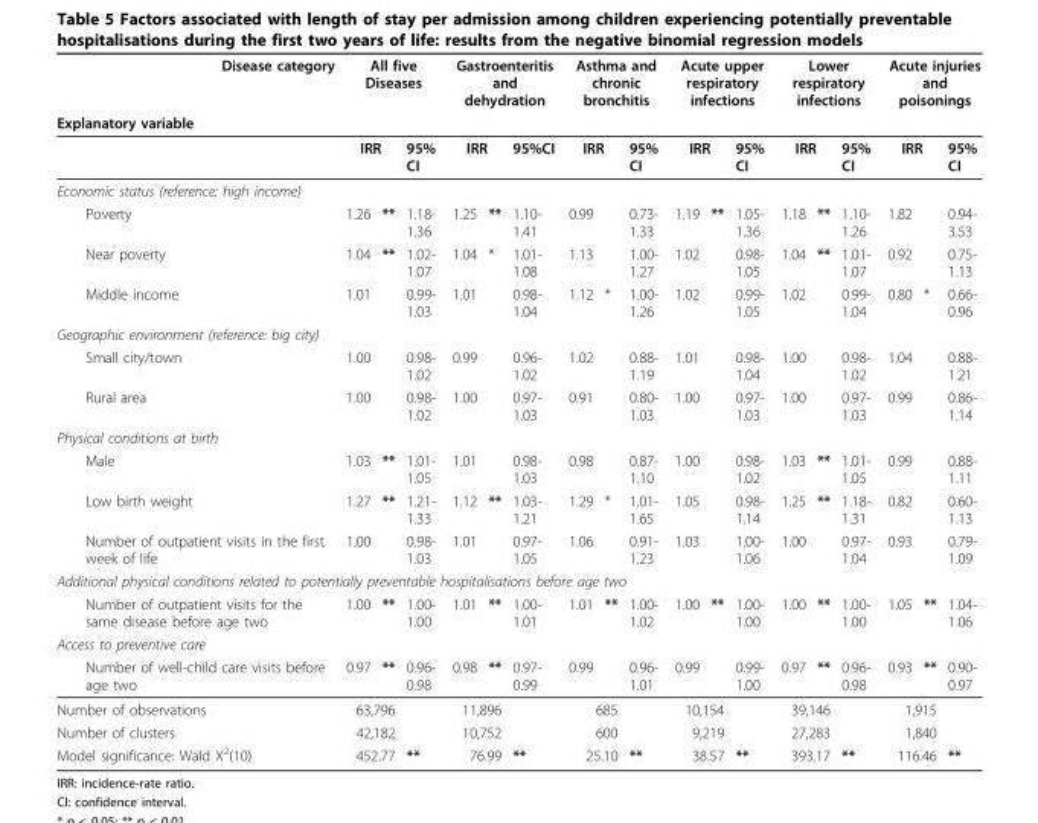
<table><thead><tr><td>Disease category</td><td colspan="3">All five Diseases</td><td colspan="3">Gastroenteritis and dehydration</td><td colspan="3">Asthma and chronic bronchitis</td><td colspan="3">Acute upper respiratory infections</td><td colspan="3">Lower respiratory infections</td><td colspan="3">Acute injuries and poisonings</td></tr><tr><td colspan="19">Explanatory variable</td></tr><tr><td></td><td colspan="2">IRR</td><td>95% CI</td><td colspan="2">IRR</td><td>95%CI</td><td colspan="2">IRR</td><td>95% CI</td><td colspan="2">IRR</td><td>95% CI</td><td colspan="2">IRR</td><td>95% CI</td><td colspan="2">IRR</td><td>95% CI</td></tr><tr><td colspan="19">Economic status (reference: high income)</td></tr><tr><td>Poverty</td><td>1.26</td><td>**</td><td>1.18- 1.36</td><td>1.25</td><td>**</td><td>1.10- 1.41</td><td>0.99</td><td></td><td>0.73- 1.33</td><td>1.19</td><td>**</td><td>1.05- 1.36</td><td>1.18</td><td>**</td><td>1.10- 1.26</td><td>1.82</td><td></td><td>0.94- 3.53</td></tr></thead><tbody><tr><td>Near poverty</td><td>1.04</td><td>**</td><td>1.02- 1.07</td><td>1.04</td><td>*</td><td>1.01- 1.08</td><td>1.13</td><td></td><td>1.00- 1.27</td><td>1.02</td><td></td><td>0.98- 1.05</td><td>1.04</td><td>**</td><td>1.01- 1.07</td><td>0.92</td><td></td><td>0.75- 1.13</td></tr><tr><td>Middle income</td><td>1.01</td><td></td><td>0.99- 1.03</td><td>1.01</td><td></td><td>0.98- 1.04</td><td>1.12</td><td>*</td><td>1.00- 1.26</td><td>1.02</td><td></td><td>0.99- 1.05</td><td>1.02</td><td></td><td>0.99- 1.04</td><td>0.80</td><td>*</td><td>0.66- 0.96</td></tr><tr><td colspan="19">Geographic environment (reference: big city)</td></tr><tr><td>Small city/town</td><td>1.00</td><td></td><td>0.98- 1.02</td><td>0.99</td><td></td><td>0.96- 1.02</td><td>1.02</td><td></td><td>0.88- 1.19</td><td>1.01</td><td></td><td>0.98- 1.04</td><td>1.00</td><td></td><td>0.98- 1.02</td><td>1.04</td><td></td><td>0.88- 1.21</td></tr><tr><td>Rural area</td><td>1.00</td><td></td><td>0.98- 1.02</td><td>1.00</td><td></td><td>0.97- 1.03</td><td>0.91</td><td></td><td>0.80- 1.03</td><td>1.00</td><td></td><td>0.97- 1.03</td><td>1.00</td><td></td><td>0.97- 1.03</td><td>0.99</td><td></td><td>0.86- 1.14</td></tr><tr><td colspan="19">Physical conditions at birth</td></tr><tr><td>Male</td><td>1.03</td><td>**</td><td>1.01- 1.05</td><td>1.01</td><td></td><td>0.98- 1.03</td><td>0.98</td><td></td><td>0.87- 1.10</td><td>1.00</td><td></td><td>0.98- 1.02</td><td>1.03</td><td>**</td><td>1.01- 1.05</td><td>0.99</td><td></td><td>0.88- 1.11</td></tr><tr><td>Low birth weight</td><td>1.27</td><td>**</td><td>1.21- 1.33</td><td>1.12</td><td>**</td><td>1.03- 1.21</td><td>1.29</td><td>*</td><td>1.01- 1.65</td><td>1.05</td><td></td><td>0.98- 1.14</td><td>1.25</td><td>**</td><td>1.18- 1.31</td><td>0.82</td><td></td><td>0.60- 1.13</td></tr><tr><td>Number of outpatient visits in the first week of life</td><td>1.00</td><td></td><td>0.98- 1.03</td><td>1.01</td><td></td><td>0.97- 1.05</td><td>1.06</td><td></td><td>0.91- 1.23</td><td>1.03</td><td></td><td>1.00- 1.06</td><td>1.00</td><td></td><td>0.97- 1.04</td><td>0.93</td><td></td><td>0.79- 1.09</td></tr><tr><td colspan="19">Additional physical conditions related to potentially preventable hospitalisations before age two</td></tr><tr><td>Number of outpatient visits for the same disease before age two</td><td>1.00</td><td>**</td><td>1.00- 1.00</td><td>1.01</td><td>**</td><td>1.00- 1.01</td><td>1.01</td><td>**</td><td>1.00- 1.02</td><td>1.00</td><td>**</td><td>1.00- 1.00</td><td>1.00</td><td>**</td><td>1.00- 1.00</td><td>1.05</td><td>**</td><td>1.04- 1.06</td></tr><tr><td colspan="19">Access to preventive care</td></tr><tr><td>Number of well-child care visits before age two</td><td>0.97</td><td>**</td><td>0.96- 0.98</td><td>0.98</td><td>**</td><td>0.97- 0.99</td><td>0.99</td><td></td><td>0.96- 1.01</td><td>0.99</td><td></td><td>0.99- 1.00</td><td>0.97</td><td>**</td><td>0.96- 0.98</td><td>0.93</td><td>**</td><td>0.90- 0.97</td></tr><tr><td>Number of observations</td><td colspan="2">63,796</td><td></td><td colspan="2">11,896</td><td></td><td colspan="2">685</td><td></td><td colspan="2">10,154</td><td></td><td colspan="2">39,146</td><td></td><td colspan="2">1,915</td><td></td></tr><tr><td>Number of clusters</td><td colspan="2">42,182</td><td></td><td colspan="2">10,752</td><td></td><td colspan="2">600</td><td></td><td colspan="2">9,219</td><td></td><td colspan="2">27,283</td><td></td><td colspan="2">1,840</td><td></td></tr><tr><td>Model significance: Wald Χ<sup>2</sup>(10)</td><td colspan="2">452.77</td><td>**</td><td colspan="2">76.99</td><td>**</td><td colspan="2">25.10</td><td>**</td><td colspan="2">38.57</td><td>**</td><td colspan="2">393.17</td><td>**</td><td colspan="2">116.46</td><td>**</td></tr></tbody></table>